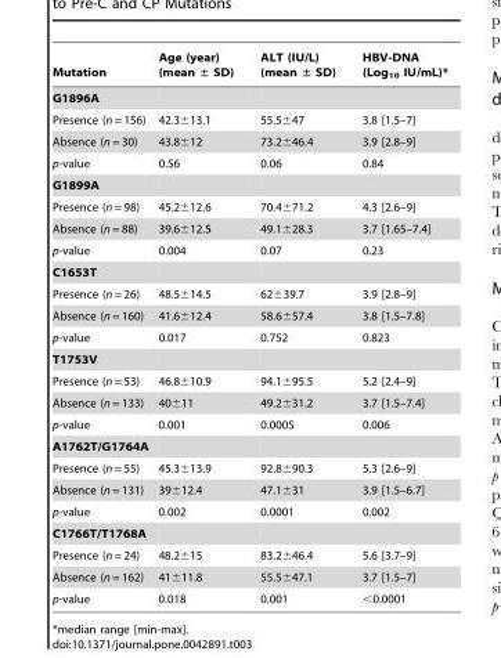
<table><thead><tr><td>Mutation</td><td>Age (year) (mean ± SD)</td><td>ALT (IU/L) (mean ± SD)</td><td>HBV-DNA (Log<sub>10</sub> IU/mL)*</td></tr></thead><tbody><tr><td colspan="4">G1896A</td></tr><tr><td>Presence (n = 156)</td><td>42.3±13.1</td><td>55.5±47</td><td>3.8 [1.5–7]</td></tr><tr><td>Absence (n = 30)</td><td>43.8±12</td><td>73.2±46.4</td><td>3.9 [2.8–9]</td></tr><tr><td>p-value</td><td>0.56</td><td>0.06</td><td>0.84</td></tr><tr><td colspan="4">G1899A</td></tr><tr><td>Presence (n = 98)</td><td>45.2±12.6</td><td>70.4±71.2</td><td>4.3 [2.6–9]</td></tr><tr><td>Absence (n = 88)</td><td>39.6±12.5</td><td>49.1±28.3</td><td>3.7 [1.65–7.4]</td></tr><tr><td>p-value</td><td>0.004</td><td>0.07</td><td>0.23</td></tr><tr><td colspan="4">C1653T</td></tr><tr><td>Presence (n = 26)</td><td>48.5±14.5</td><td>62±39.7</td><td>3.9 [2.8–9]</td></tr><tr><td>Absence (n = 160)</td><td>41.6±12.4</td><td>58.6±57.4</td><td>3.8 [1.5–7.8]</td></tr><tr><td>p-value</td><td>0.017</td><td>0.752</td><td>0.823</td></tr><tr><td colspan="4">T1753V</td></tr><tr><td>Presence (n = 53)</td><td>46.8±10.9</td><td>94.1±95.5</td><td>5.2 [2.4–9]</td></tr><tr><td>Absence (n = 133)</td><td>40±11</td><td>49.2±31.2</td><td>3.7 [1.5–7.4]</td></tr><tr><td>p-value</td><td>0.001</td><td>0.0005</td><td>0.006</td></tr><tr><td colspan="4">A1762T/G1764A</td></tr><tr><td>Presence (n = 55)</td><td>45.3±13.9</td><td>92.8±90.3</td><td>5.3 [2.6–9]</td></tr><tr><td>Absence (n = 131)</td><td>39±12.4</td><td>47.1±31</td><td>3.9 [1.5–6.7]</td></tr><tr><td>p-value</td><td>0.002</td><td>0.0001</td><td>0.002</td></tr><tr><td colspan="4">C1766T/T1768A</td></tr><tr><td>Presence (n = 24)</td><td>48.2±15</td><td>83.2±46.4</td><td>5.6 [3.7–9]</td></tr><tr><td>Absence (n = 162)</td><td>41±11.8</td><td>55.5±47.1</td><td>3.7 [1.5–7]</td></tr><tr><td>p-value</td><td>0.018</td><td>0.001</td><td>&lt;0.0001</td></tr></tbody></table>